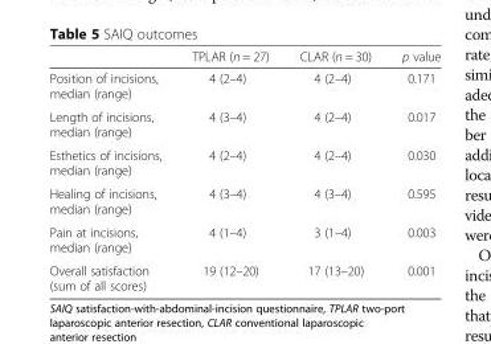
<table><thead><tr><td></td><td>TPLAR (n = 27)</td><td>CLAR (n = 30)</td><td>p value</td></tr></thead><tbody><tr><td>Position of incisions, median (range)</td><td>4 (2–4)</td><td>4 (2–4)</td><td>0.171</td></tr><tr><td>Length of incisions, median (range)</td><td>4 (3–4)</td><td>4 (2–4)</td><td>0.017</td></tr><tr><td>Esthetics of incisions, median (range)</td><td>4 (2–4)</td><td>4 (2–4)</td><td>0.030</td></tr><tr><td>Healing of incisions, median (range)</td><td>4 (3–4)</td><td>4 (3–4)</td><td>0.595</td></tr><tr><td>Pain at incisions, median (range)</td><td>4 (1–4)</td><td>3 (1–4)</td><td>0.003</td></tr><tr><td>Overall satisfaction (sum of all scores)</td><td>19 (12–20)</td><td>17 (13–20)</td><td>0.001</td></tr></tbody></table>